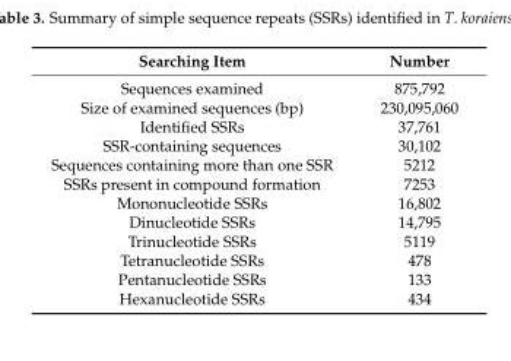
<table><thead><tr><td>Searching Item</td><td>Number</td></tr></thead><tbody><tr><td>Sequences examined</td><td>875,792</td></tr><tr><td>Size of examined sequences (bp)</td><td>230,095,060</td></tr><tr><td>Identified SSRs</td><td>37,761</td></tr><tr><td>SSR-containing sequences</td><td>30,102</td></tr><tr><td>Sequences containing more than one SSR</td><td>5212</td></tr><tr><td>SSRs present in compound formation</td><td>7253</td></tr><tr><td>Mononucleotide SSRs</td><td>16,802</td></tr><tr><td>Dinucleotide SSRs</td><td>14,795</td></tr><tr><td>Trinucleotide SSRs</td><td>5119</td></tr><tr><td>Tetranucleotide SSRs</td><td>478</td></tr><tr><td>Pentanucleotide SSRs</td><td>133</td></tr><tr><td>Hexanucleotide SSRs</td><td>434</td></tr></tbody></table>